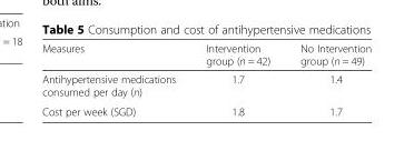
<table><thead><tr><td>Measures</td><td>Intervention group (n = 42)</td><td>No Intervention group (n = 49)</td></tr></thead><tbody><tr><td>Antihypertensive medications consumed per day (n)</td><td>1.7</td><td>1.4</td></tr><tr><td>Cost per week (SGD)</td><td>1.8</td><td>1.7</td></tr></tbody></table>